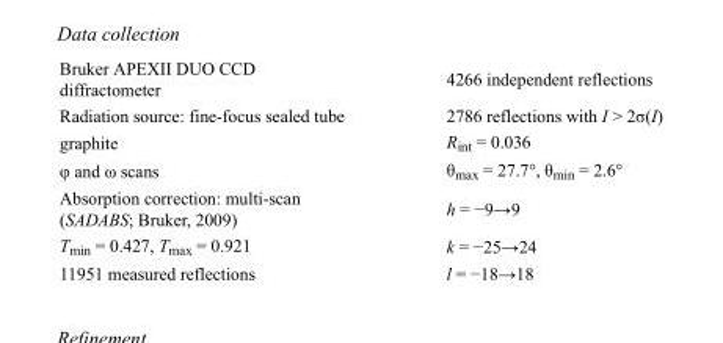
<table><tbody><tr><td>Bruker APEXII DUO CCD diffractometer</td><td>4266 independent reflections</td></tr><tr><td>Radiation source: fine-focus sealed tube</td><td>2786 reflections with I &gt; 2σ(I)</td></tr><tr><td>graphite</td><td>R<sub>int</sub> = 0.036</td></tr><tr><td>φ and ω scans</td><td>θ<sub>max</sub> = 27.7°, θ<sub>min</sub> = 2.6°</td></tr><tr><td>Absorption correction: multi-scan (SADABS; Bruker, 2009)</td><td>h = −9→9</td></tr><tr><td>T<sub>min</sub> = 0.427, T<sub>max</sub> = 0.921</td><td>k = −25→24</td></tr><tr><td>11951 measured reflections</td><td>l = −18→18</td></tr></tbody></table>